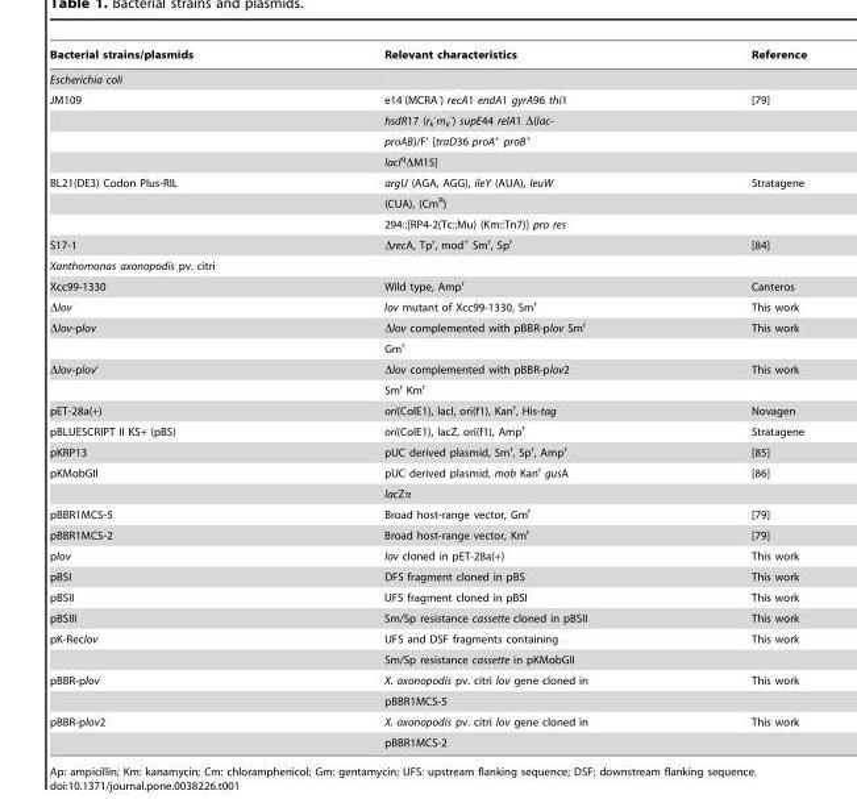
<table><thead><tr><td>Bacterial strains/plasmids</td><td>Relevant characteristics</td><td>Reference</td></tr></thead><tbody><tr><td colspan="3">Escherichia coli</td></tr><tr><td rowspan="4">JM109</td><td>e14<sup>-</sup>(MCRA<sup>-</sup>) recA1 endA1 gyrA96 thi1</td><td>[79]</td></tr><tr><td>hsdR17 (r<sub>k</sub> <sup>-</sup>m<sub>k</sub> <sup>-</sup>) supE44 relA1 Δ(lac-</td><td></td></tr><tr><td>proAB)/F’ [traD36 proA<sup>+</sup> proB<sup>+</sup></td><td></td></tr><tr><td>lacI<sup>q</sup>ΔM15]</td><td></td></tr><tr><td rowspan="3">BL21(DE3) Codon Plus-RIL</td><td>argU (AGA, AGG), ileY (AUA), leuW</td><td>Stratagene</td></tr><tr><td>(CUA), (Cm<sup>R</sup>)</td><td></td></tr><tr><td>294::[RP4-2(Tc::Mu) (Km::Tn7)] pro res</td><td></td></tr><tr><td>S17-1</td><td>ΔrecA, Tp<sup>r</sup>, mod<sup>+</sup> Sm<sup>r</sup>, Sp<sup>r</sup></td><td>[84]</td></tr><tr><td colspan="3">Xanthomonas axonopodis pv. citri</td></tr><tr><td>Xcc99-1330</td><td>Wild type, Amp<sup>r</sup></td><td>Canteros</td></tr><tr><td>Δlov</td><td>lov mutant of Xcc99-1330, Sm<sup>r</sup></td><td>This work</td></tr><tr><td rowspan="2">Δlov-plov</td><td>Δlov complemented with pBBR-plov Sm<sup>r</sup></td><td>This work</td></tr><tr><td>Gm<sup>r</sup></td><td></td></tr><tr><td rowspan="2">Δlov-plov’</td><td>Δlov complemented with pBBR-plov2</td><td>This work</td></tr><tr><td>Sm<sup>r</sup> Km<sup>r</sup></td><td></td></tr><tr><td>pET-28a(+)</td><td>ori(ColE1), lacI, ori(f1), Kan<sup>r</sup>, His-tag</td><td>Novagen</td></tr><tr><td>pBLUESCRIPT II KS+ (pBS)</td><td>ori(ColE1), lacZ, ori(f1), Amp<sup>r</sup></td><td>Stratagene</td></tr><tr><td>pKRP13</td><td>pUC derived plasmid, Sm<sup>r</sup>, Sp<sup>r</sup>, Amp<sup>r</sup></td><td>[85]</td></tr><tr><td rowspan="2">pKMobGII</td><td>pUC derived plasmid, mob Kan<sup>r</sup> gusA</td><td>[86]</td></tr><tr><td>lacZα</td><td></td></tr><tr><td>pBBR1MCS-5</td><td>Broad host-range vector, Gm<sup>r</sup></td><td>[79]</td></tr><tr><td>pBBR1MCS-2</td><td>Broad host-range vector, Km<sup>r</sup></td><td>[79]</td></tr><tr><td>plov</td><td>lov cloned in pET-28a(+)</td><td>This work</td></tr><tr><td>pBSI</td><td>DFS fragment cloned in pBS</td><td>This work</td></tr><tr><td>pBSII</td><td>UFS fragment cloned in pBSI</td><td>This work</td></tr><tr><td>pBSIII</td><td>Sm/Sp resistance cassette cloned in pBSII</td><td>This work</td></tr><tr><td rowspan="2">pK-Reclov</td><td>UFS and DSF fragments containing</td><td>This work</td></tr><tr><td>Sm/Sp resistance cassette in pKMobGII</td><td></td></tr><tr><td rowspan="2">pBBR-plov</td><td>X. axonopodis pv. citri lov gene cloned in</td><td>This work</td></tr><tr><td>pBBR1MCS-5</td><td></td></tr><tr><td rowspan="2">pBBR-plov2</td><td>X. axonopodis pv. citri lov gene cloned in</td><td>This work</td></tr><tr><td>pBBR1MCS-2</td><td></td></tr></tbody></table>